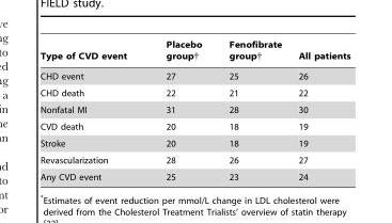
<table><thead><tr><td>Type of CVD event</td><td>Placebo group†</td><td>Fenofibrate group†</td><td>All patients</td></tr></thead><tbody><tr><td>CHD event</td><td>27</td><td>25</td><td>26</td></tr><tr><td>CHD death</td><td>22</td><td>21</td><td>22</td></tr><tr><td>Nonfatal MI</td><td>31</td><td>28</td><td>30</td></tr><tr><td>CVD death</td><td>20</td><td>18</td><td>19</td></tr><tr><td>Stroke</td><td>20</td><td>18</td><td>19</td></tr><tr><td>Revascularization</td><td>28</td><td>26</td><td>27</td></tr><tr><td>Any CVD event</td><td>25</td><td>23</td><td>24</td></tr></tbody></table>